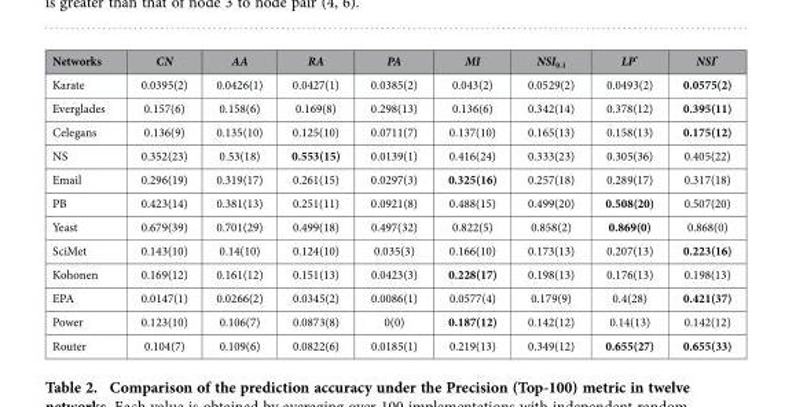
<table><thead><tr><td>Networks</td><td>CN</td><td>AA</td><td>RA</td><td>PA</td><td>MI</td><td>NSI<sub>0.1</sub></td><td>LP*</td><td>NSI*</td></tr></thead><tbody><tr><td>Karate</td><td>0.0395(2)</td><td>0.0426(1)</td><td>0.0427(1)</td><td>0.0385(2)</td><td>0.043(2)</td><td>0.0529(2)</td><td>0.0493(2)</td><td>0.0575(2)</td></tr><tr><td>Everglades</td><td>0.157(6)</td><td>0.158(6)</td><td>0.169(8)</td><td>0.298(13)</td><td>0.136(6)</td><td>0.342(14)</td><td>0.378(12)</td><td>0.395(11)</td></tr><tr><td>Celegans</td><td>0.136(9)</td><td>0.135(10)</td><td>0.125(10)</td><td>0.0711(7)</td><td>0.137(10)</td><td>0.165(13)</td><td>0.158(13)</td><td>0.175(12)</td></tr><tr><td>NS</td><td>0.352(23)</td><td>0.53(18)</td><td>0.553(15)</td><td>0.0139(1)</td><td>0.416(24)</td><td>0.333(23)</td><td>0.305(36)</td><td>0.405(22)</td></tr><tr><td>Email</td><td>0.296(19)</td><td>0.319(17)</td><td>0.261(15)</td><td>0.0297(3)</td><td>0.325(16)</td><td>0.257(18)</td><td>0.289(17)</td><td>0.317(18)</td></tr><tr><td>PB</td><td>0.423(14)</td><td>0.381(13)</td><td>0.251(11)</td><td>0.0921(8)</td><td>0.488(15)</td><td>0.499(20)</td><td>0.508(20)</td><td>0.507(20)</td></tr><tr><td>Yeast</td><td>0.679(39)</td><td>0.701(29)</td><td>0.499(18)</td><td>0.497(32)</td><td>0.822(5)</td><td>0.858(2)</td><td>0.869(0)</td><td>0.868(0)</td></tr><tr><td>SciMet</td><td>0.143(10)</td><td>0.14(10)</td><td>0.124(10)</td><td>0.035(3)</td><td>0.166(10)</td><td>0.173(13)</td><td>0.207(13)</td><td>0.223(16)</td></tr><tr><td>Kohonen</td><td>0.169(12)</td><td>0.161(12)</td><td>0.151(13)</td><td>0.0423(3)</td><td>0.228(17)</td><td>0.198(13)</td><td>0.176(13)</td><td>0.198(13)</td></tr><tr><td>EPA</td><td>0.0147(1)</td><td>0.0266(2)</td><td>0.0345(2)</td><td>0.0086(1)</td><td>0.0577(4)</td><td>0.179(9)</td><td>0.4(28)</td><td>0.421(37)</td></tr><tr><td>Power</td><td>0.123(10)</td><td>0.106(7)</td><td>0.0873(8)</td><td>0(0)</td><td>0.187(12)</td><td>0.142(12)</td><td>0.14(13)</td><td>0.142(12)</td></tr><tr><td>Router</td><td>0.104(7)</td><td>0.109(6)</td><td>0.0822(6)</td><td>0.0185(1)</td><td>0.219(13)</td><td>0.349(12)</td><td>0.655(27)</td><td>0.655(33)</td></tr></tbody></table>